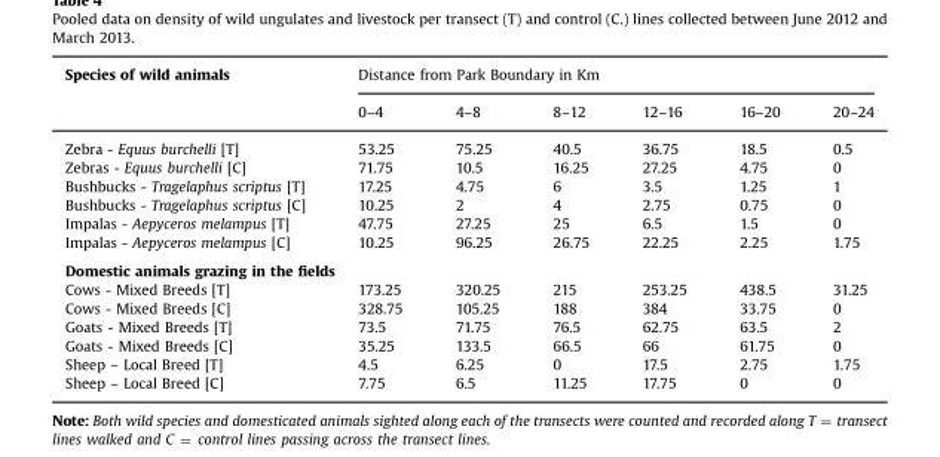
<table><thead><tr><td rowspan="2">Species of wild animals</td><td colspan="6">Distance from Park Boundary in Km</td></tr><tr><td>0–4</td><td>4–8</td><td>8–12</td><td>12–16</td><td>16–20</td><td>20–24</td></tr></thead><tbody><tr><td>Zebra - Equus burchelli [T]</td><td>53.25</td><td>75.25</td><td>40.5</td><td>36.75</td><td>18.5</td><td>0.5</td></tr><tr><td>Zebras - Equus burchelli [C]</td><td>71.75</td><td>10.5</td><td>16.25</td><td>27.25</td><td>4.75</td><td>0</td></tr><tr><td>Bushbucks - Tragelaphus scriptus [T]</td><td>17.25</td><td>4.75</td><td>6</td><td>3.5</td><td>1.25</td><td>1</td></tr><tr><td>Bushbucks - Tragelaphus scriptus [C]</td><td>10.25</td><td>2</td><td>4</td><td>2.75</td><td>0.75</td><td>0</td></tr><tr><td>Impalas - Aepyceros melampus [T]</td><td>47.75</td><td>27.25</td><td>25</td><td>6.5</td><td>1.5</td><td>0</td></tr><tr><td>Impalas - Aepyceros melampus [C]</td><td>10.25</td><td>96.25</td><td>26.75</td><td>22.25</td><td>2.25</td><td>1.75</td></tr><tr><td colspan="7">Domestic animals grazing in the fields</td></tr><tr><td>Cows - Mixed Breeds [T]</td><td>173.25</td><td>320.25</td><td>215</td><td>253.25</td><td>438.5</td><td>31.25</td></tr><tr><td>Cows - Mixed Breeds [C]</td><td>328.75</td><td>105.25</td><td>188</td><td>384</td><td>33.75</td><td>0</td></tr><tr><td>Goats - Mixed Breeds [T]</td><td>73.5</td><td>71.75</td><td>76.5</td><td>62.75</td><td>63.5</td><td>2</td></tr><tr><td>Goats - Mixed Breeds [C]</td><td>35.25</td><td>133.5</td><td>66.5</td><td>66</td><td>61.75</td><td>0</td></tr><tr><td>Sheep – Local Breed [T]</td><td>4.5</td><td>6.25</td><td>0</td><td>17.5</td><td>2.75</td><td>1.75</td></tr><tr><td>Sheep – Local Breed [C]</td><td>7.75</td><td>6.5</td><td>11.25</td><td>17.75</td><td>0</td><td>0</td></tr></tbody></table>